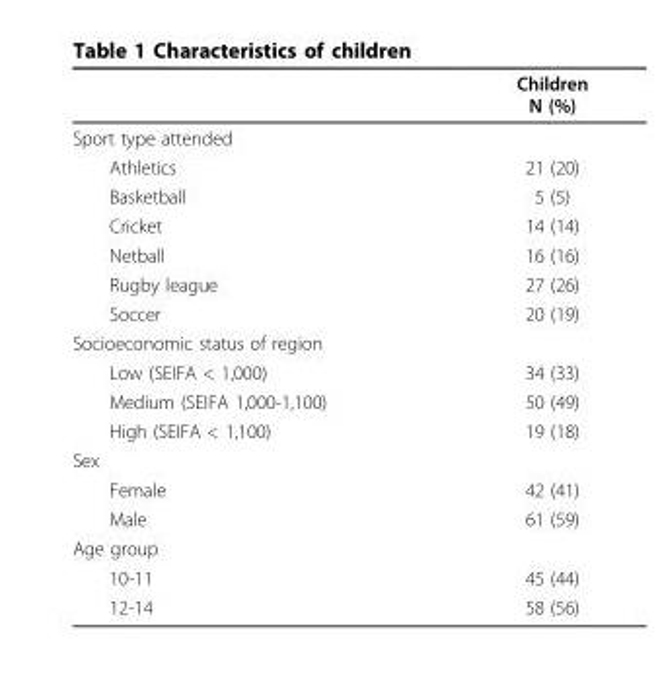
<table><thead><tr><td></td><td>Children N (%)</td></tr></thead><tbody><tr><td colspan="2">Sport type attended</td></tr><tr><td>Athletics</td><td>21 (20)</td></tr><tr><td>Basketball</td><td>5 (5)</td></tr><tr><td>Cricket</td><td>14 (14)</td></tr><tr><td>Netball</td><td>16 (16)</td></tr><tr><td>Rugby league</td><td>27 (26)</td></tr><tr><td>Soccer</td><td>20 (19)</td></tr><tr><td colspan="2">Socioeconomic status of region</td></tr><tr><td>Low (SEIFA &lt; 1,000)</td><td>34 (33)</td></tr><tr><td>Medium (SEIFA 1,000-1,100)</td><td>50 (49)</td></tr><tr><td>High (SEIFA &lt; 1,100)</td><td>19 (18)</td></tr><tr><td colspan="2">Sex</td></tr><tr><td>Female</td><td>42 (41)</td></tr><tr><td>Male</td><td>61 (59)</td></tr><tr><td colspan="2">Age group</td></tr><tr><td>10-11</td><td>45 (44)</td></tr><tr><td>12-14</td><td>58 (56)</td></tr></tbody></table>